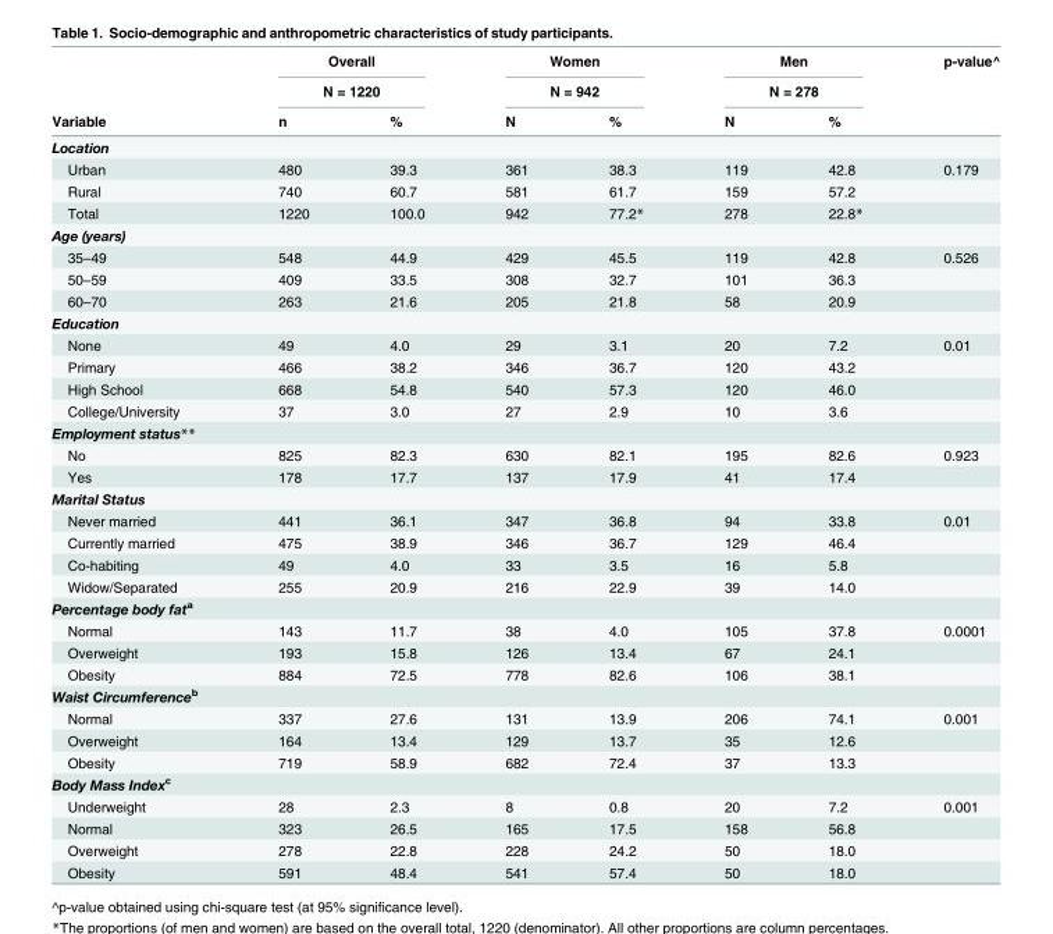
<table><thead><tr><td rowspan="3">Variable</td><td rowspan="2" colspan="2">Overall N = 1220</td><td rowspan="2" colspan="2">Women N = 942</td><td rowspan="2" colspan="2">Men N = 278</td><td rowspan="3">p-value^</td></tr><tr></tr><tr><td>n</td><td>%</td><td>N</td><td>%</td><td>N</td><td>%</td></tr></thead><tbody><tr><td colspan="8">Location</td></tr><tr><td>Urban</td><td>480</td><td>39.3</td><td>361</td><td>38.3</td><td>119</td><td>42.8</td><td>0.179</td></tr><tr><td>Rural</td><td>740</td><td>60.7</td><td>581</td><td>61.7</td><td>159</td><td>57.2</td><td></td></tr><tr><td>Total</td><td>1220</td><td>100.0</td><td>942</td><td>77.2*</td><td>278</td><td>22.8*</td><td></td></tr><tr><td colspan="8">Age (years)</td></tr><tr><td>35–49</td><td>548</td><td>44.9</td><td>429</td><td>45.5</td><td>119</td><td>42.8</td><td>0.526</td></tr><tr><td>50–59</td><td>409</td><td>33.5</td><td>308</td><td>32.7</td><td>101</td><td>36.3</td><td></td></tr><tr><td>60–70</td><td>263</td><td>21.6</td><td>205</td><td>21.8</td><td>58</td><td>20.9</td><td></td></tr><tr><td colspan="8">Education</td></tr><tr><td>None</td><td>49</td><td>4.0</td><td>29</td><td>3.1</td><td>20</td><td>7.2</td><td>0.01</td></tr><tr><td>Primary</td><td>466</td><td>38.2</td><td>346</td><td>36.7</td><td>120</td><td>43.2</td><td></td></tr><tr><td>High School</td><td>668</td><td>54.8</td><td>540</td><td>57.3</td><td>120</td><td>46.0</td><td></td></tr><tr><td>College/University</td><td>37</td><td>3.0</td><td>27</td><td>2.9</td><td>10</td><td>3.6</td><td></td></tr><tr><td colspan="8">Employment status**</td></tr><tr><td>No</td><td>825</td><td>82.3</td><td>630</td><td>82.1</td><td>195</td><td>82.6</td><td>0.923</td></tr><tr><td>Yes</td><td>178</td><td>17.7</td><td>137</td><td>17.9</td><td>41</td><td>17.4</td><td></td></tr><tr><td colspan="8">Marital Status</td></tr><tr><td>Never married</td><td>441</td><td>36.1</td><td>347</td><td>36.8</td><td>94</td><td>33.8</td><td>0.01</td></tr><tr><td>Currently married</td><td>475</td><td>38.9</td><td>346</td><td>36.7</td><td>129</td><td>46.4</td><td></td></tr><tr><td>Co-habiting</td><td>49</td><td>4.0</td><td>33</td><td>3.5</td><td>16</td><td>5.8</td><td></td></tr><tr><td>Widow/Separated</td><td>255</td><td>20.9</td><td>216</td><td>22.9</td><td>39</td><td>14.0</td><td></td></tr><tr><td colspan="8">Percentage body fat<sup>a</sup></td></tr><tr><td>Normal</td><td>143</td><td>11.7</td><td>38</td><td>4.0</td><td>105</td><td>37.8</td><td>0.0001</td></tr><tr><td>Overweight</td><td>193</td><td>15.8</td><td>126</td><td>13.4</td><td>67</td><td>24.1</td><td></td></tr><tr><td>Obesity</td><td>884</td><td>72.5</td><td>778</td><td>82.6</td><td>106</td><td>38.1</td><td></td></tr><tr><td colspan="8">Waist Circumference<sup>b</sup></td></tr><tr><td>Normal</td><td>337</td><td>27.6</td><td>131</td><td>13.9</td><td>206</td><td>74.1</td><td>0.001</td></tr><tr><td>Overweight</td><td>164</td><td>13.4</td><td>129</td><td>13.7</td><td>35</td><td>12.6</td><td></td></tr><tr><td>Obesity</td><td>719</td><td>58.9</td><td>682</td><td>72.4</td><td>37</td><td>13.3</td><td></td></tr><tr><td colspan="8">Body Mass Index<sup>c</sup></td></tr><tr><td>Underweight</td><td>28</td><td>2.3</td><td>8</td><td>0.8</td><td>20</td><td>7.2</td><td>0.001</td></tr><tr><td>Normal</td><td>323</td><td>26.5</td><td>165</td><td>17.5</td><td>158</td><td>56.8</td><td></td></tr><tr><td>Overweight</td><td>278</td><td>22.8</td><td>228</td><td>24.2</td><td>50</td><td>18.0</td><td></td></tr><tr><td>Obesity</td><td>591</td><td>48.4</td><td>541</td><td>57.4</td><td>50</td><td>18.0</td><td></td></tr></tbody></table>